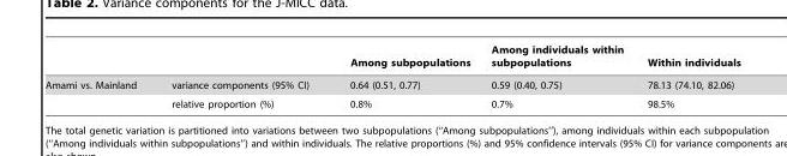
<table><thead><tr><td></td><td></td><td>Among subpopulations</td><td>Among individuals within subpopulations</td><td>Within individuals</td></tr></thead><tbody><tr><td rowspan="2">Amami vs. Mainland</td><td>variance components (95% CI)</td><td>0.64 (0.51, 0.77)</td><td>0.59 (0.40, 0.75)</td><td>78.13 (74.10, 82.06)</td></tr><tr><td>relative proportion (%)</td><td>0.8%</td><td>0.7%</td><td>98.5%</td></tr></tbody></table>